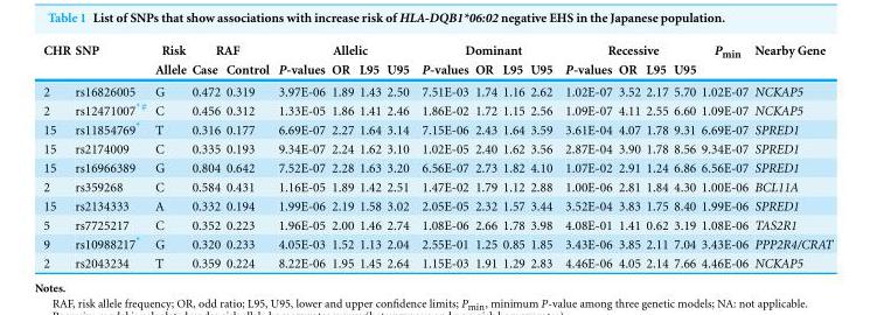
<table><thead><tr><td rowspan="2">CHR</td><td rowspan="2">SNP</td><td rowspan="2">Risk Allele</td><td colspan="2">RAF</td><td colspan="4">Allelic</td><td colspan="4">Dominant</td><td colspan="4">Recessive</td><td rowspan="2">P<sub>min</sub></td><td rowspan="2">Nearby Gene</td></tr><tr><td>Case</td><td>Control</td><td>P-values</td><td>OR</td><td>L95</td><td>U95</td><td>P-values</td><td>OR</td><td>L95</td><td>U95</td><td>P-values</td><td>OR</td><td>L95</td><td>U95</td></tr></thead><tbody><tr><td>2</td><td>rs16826005</td><td>G</td><td>0.472</td><td>0.319</td><td>3.97E-06</td><td>1.89</td><td>1.43</td><td>2.50</td><td>7.51E-03</td><td>1.74</td><td>1.16</td><td>2.62</td><td>1.02E-07</td><td>3.52</td><td>2.17</td><td>5.70</td><td>1.02E-07</td><td>NCKAP5</td></tr><tr><td>2</td><td>rs12471007<sup>*#</sup></td><td>C</td><td>0.456</td><td>0.312</td><td>1.33E-05</td><td>1.86</td><td>1.41</td><td>2.46</td><td>1.86E-02</td><td>1.72</td><td>1.15</td><td>2.56</td><td>1.09E-07</td><td>4.11</td><td>2.55</td><td>6.60</td><td>1.09E-07</td><td>NCKAP5</td></tr><tr><td>15</td><td>rs11854769*</td><td>T</td><td>0.316</td><td>0.177</td><td>6.69E-07</td><td>2.27</td><td>1.64</td><td>3.14</td><td>7.15E-06</td><td>2.43</td><td>1.64</td><td>3.59</td><td>3.61E-04</td><td>4.07</td><td>1.78</td><td>9.31</td><td>6.69E-07</td><td>SPRED1</td></tr><tr><td>15</td><td>rs2174009</td><td>C</td><td>0.335</td><td>0.193</td><td>9.34E-07</td><td>2.24</td><td>1.62</td><td>3.10</td><td>1.02E-05</td><td>2.40</td><td>1.62</td><td>3.56</td><td>2.87E-04</td><td>3.90</td><td>1.78</td><td>8.56</td><td>9.34E-07</td><td>SPRED1</td></tr><tr><td>15</td><td>rs16966389</td><td>G</td><td>0.804</td><td>0.642</td><td>7.52E-07</td><td>2.28</td><td>1.63</td><td>3.20</td><td>6.56E-07</td><td>2.73</td><td>1.82</td><td>4.10</td><td>1.07E-02</td><td>2.91</td><td>1.24</td><td>6.86</td><td>6.56E-07</td><td>SPRED1</td></tr><tr><td>2</td><td>rs359268</td><td>C</td><td>0.584</td><td>0.431</td><td>1.16E-05</td><td>1.89</td><td>1.42</td><td>2.51</td><td>1.47E-02</td><td>1.79</td><td>1.12</td><td>2.88</td><td>1.00E-06</td><td>2.81</td><td>1.84</td><td>4.30</td><td>1.00E-06</td><td>BCL11A</td></tr><tr><td>15</td><td>rs2134333</td><td>A</td><td>0.332</td><td>0.194</td><td>1.99E-06</td><td>2.19</td><td>1.58</td><td>3.02</td><td>2.05E-05</td><td>2.32</td><td>1.57</td><td>3.44</td><td>3.52E-04</td><td>3.83</td><td>1.75</td><td>8.40</td><td>1.99E-06</td><td>SPRED1</td></tr><tr><td>5</td><td>rs7725217</td><td>C</td><td>0.352</td><td>0.223</td><td>1.96E-05</td><td>2.00</td><td>1.46</td><td>2.74</td><td>1.08E-06</td><td>2.66</td><td>1.78</td><td>3.98</td><td>4.08E-01</td><td>1.41</td><td>0.62</td><td>3.19</td><td>1.08E-06</td><td>TAS2R1</td></tr><tr><td>9</td><td>rs10988217*</td><td>G</td><td>0.320</td><td>0.233</td><td>4.05E-03</td><td>1.52</td><td>1.13</td><td>2.04</td><td>2.55E-01</td><td>1.25</td><td>0.85</td><td>1.85</td><td>3.43E-06</td><td>3.85</td><td>2.11</td><td>7.04</td><td>3.43E-06</td><td>PPP2R4/CRAT</td></tr><tr><td>2</td><td>rs2043234</td><td>T</td><td>0.359</td><td>0.224</td><td>8.22E-06</td><td>1.95</td><td>1.45</td><td>2.64</td><td>1.15E-03</td><td>1.91</td><td>1.29</td><td>2.83</td><td>4.46E-06</td><td>4.05</td><td>2.14</td><td>7.66</td><td>4.46E-06</td><td>NCKAP5</td></tr></tbody></table>